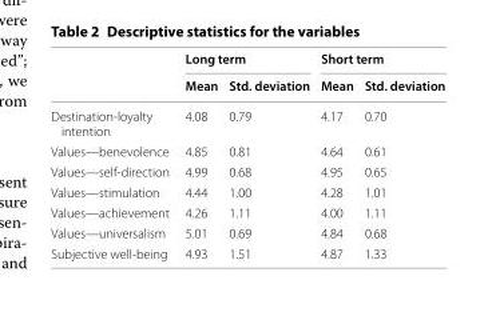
<table><thead><tr><td rowspan="2"></td><td colspan="2">Long term</td><td colspan="2">Short term</td></tr><tr><td>Mean</td><td>Std. deviation</td><td>Mean</td><td>Std. deviation</td></tr></thead><tbody><tr><td>Destination-loyalty intention</td><td>4.08</td><td>0.79</td><td>4.17</td><td>0.70</td></tr><tr><td>Values—benevolence</td><td>4.85</td><td>0.81</td><td>4.64</td><td>0.61</td></tr><tr><td>Values—self-direction</td><td>4.99</td><td>0.68</td><td>4.95</td><td>0.65</td></tr><tr><td>Values—stimulation</td><td>4.44</td><td>1.00</td><td>4.28</td><td>1.01</td></tr><tr><td>Values—achievement</td><td>4.26</td><td>1.11</td><td>4.00</td><td>1.11</td></tr><tr><td>Values—universalism</td><td>5.01</td><td>0.69</td><td>4.84</td><td>0.68</td></tr><tr><td>Subjective well-being</td><td>4.93</td><td>1.51</td><td>4.87</td><td>1.33</td></tr></tbody></table>